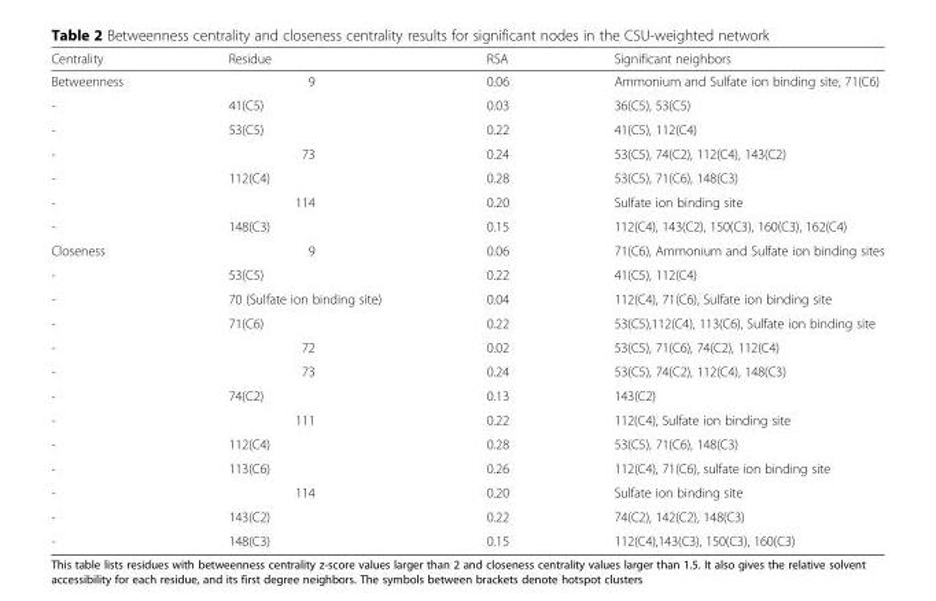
<table><thead><tr><td>Centrality</td><td>Residue</td><td>RSA</td><td>Significant neighbors</td></tr></thead><tbody><tr><td>Betweenness</td><td>9</td><td>0.06</td><td>Ammonium and Sulfate ion binding site, 71(C6)</td></tr><tr><td>-</td><td>41(C5)</td><td>0.03</td><td>36(C5), 53(C5)</td></tr><tr><td>-</td><td>53(C5)</td><td>0.22</td><td>41(C5), 112(C4)</td></tr><tr><td>-</td><td>73</td><td>0.24</td><td>53(C5), 74(C2), 112(C4), 143(C2)</td></tr><tr><td>-</td><td>112(C4)</td><td>0.28</td><td>53(C5), 71(C6), 148(C3)</td></tr><tr><td>-</td><td>114</td><td>0.20</td><td>Sulfate ion binding site</td></tr><tr><td>-</td><td>148(C3)</td><td>0.15</td><td>112(C4), 143(C2), 150(C3), 160(C3), 162(C4)</td></tr><tr><td>Closeness</td><td>9</td><td>0.06</td><td>71(C6), Ammonium and Sulfate ion binding sites</td></tr><tr><td>-</td><td>53(C5)</td><td>0.22</td><td>41(C5), 112(C4)</td></tr><tr><td>-</td><td>70 (Sulfate ion binding site)</td><td>0.04</td><td>112(C4), 71(C6), Sulfate ion binding site</td></tr><tr><td>-</td><td>71(C6)</td><td>0.22</td><td>53(C5),112(C4), 113(C6), Sulfate ion binding site</td></tr><tr><td>-</td><td>72</td><td>0.02</td><td>53(C5), 71(C6), 74(C2), 112(C4)</td></tr><tr><td>-</td><td>73</td><td>0.24</td><td>53(C5), 74(C2), 112(C4), 148(C3)</td></tr><tr><td>-</td><td>74(C2)</td><td>0.13</td><td>143(C2)</td></tr><tr><td>-</td><td>111</td><td>0.22</td><td>112(C4), Sulfate ion binding site</td></tr><tr><td>-</td><td>112(C4)</td><td>0.28</td><td>53(C5), 71(C6), 148(C3)</td></tr><tr><td>-</td><td>113(C6)</td><td>0.26</td><td>112(C4), 71(C6), sulfate ion binding site</td></tr><tr><td>-</td><td>114</td><td>0.20</td><td>Sulfate ion binding site</td></tr><tr><td>-</td><td>143(C2)</td><td>0.22</td><td>74(C2), 142(C2), 148(C3)</td></tr><tr><td>-</td><td>148(C3)</td><td>0.15</td><td>112(C4),143(C3), 150(C3), 160(C3)</td></tr></tbody></table>